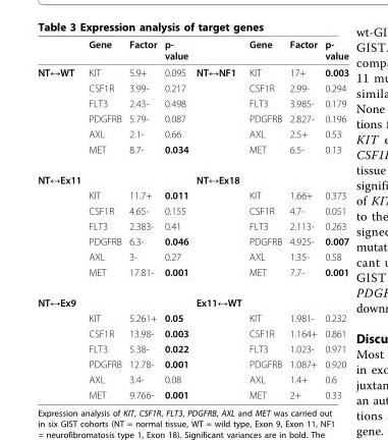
<table><thead><tr><td></td><td>Gene</td><td>Factor</td><td>p- value</td><td></td><td>Gene</td><td>Factor</td><td>p- value</td></tr></thead><tbody><tr><td rowspan="6">NT↔WT</td><td>KIT</td><td>5.9+</td><td>0.095</td><td>NT↔NF1</td><td>KIT</td><td>17+</td><td>0.003</td></tr><tr><td>CSF1R</td><td>3.99-</td><td>0.217</td><td></td><td>CSF1R</td><td>2.99-</td><td>0.294</td></tr><tr><td>FLT3</td><td>2.43-</td><td>0.498</td><td></td><td>FLT3</td><td>3.985-</td><td>0.179</td></tr><tr><td>PDGFRB</td><td>5.79-</td><td>0.087</td><td></td><td>PDGFRB</td><td>2.827-</td><td>0.196</td></tr><tr><td>AXL</td><td>2.1-</td><td>0.66</td><td></td><td>AXL</td><td>2.5+</td><td>0.53</td></tr><tr><td>MET</td><td>8.7-</td><td>0.034</td><td></td><td>MET</td><td>6.5-</td><td>0.13</td></tr><tr><td rowspan="7">NT↔Ex11</td><td></td><td></td><td></td><td>NT↔Ex18</td><td></td><td></td><td></td></tr><tr><td>KIT</td><td>11.7+</td><td>0.011</td><td></td><td>KIT</td><td>1.66+</td><td>0.373</td></tr><tr><td>CSF1R</td><td>4.65-</td><td>0.155</td><td></td><td>CSF1R</td><td>4.7-</td><td>0.051</td></tr><tr><td>FLT3</td><td>2.383-</td><td>0.41</td><td></td><td>FLT3</td><td>2.113-</td><td>0.263</td></tr><tr><td>PDGFRB</td><td>6.3-</td><td>0.046</td><td></td><td>PDGFRB</td><td>4.925-</td><td>0.007</td></tr><tr><td>AXL</td><td>3-</td><td>0.27</td><td></td><td>AXL</td><td>1.35-</td><td>0.58</td></tr><tr><td>MET</td><td>17.81-</td><td>0.001</td><td></td><td>MET</td><td>7.7-</td><td>0.001</td></tr><tr><td rowspan="7">NT↔Ex9</td><td></td><td></td><td></td><td>Ex11↔WT</td><td></td><td></td><td></td></tr><tr><td>KIT</td><td>5.261+</td><td>0.05</td><td></td><td>KIT</td><td>1.981-</td><td>0.232</td></tr><tr><td>CSF1R</td><td>13.98-</td><td>0.003</td><td></td><td>CSF1R</td><td>1.164+</td><td>0.861</td></tr><tr><td>FLT3</td><td>5.38-</td><td>0.022</td><td></td><td>FLT3</td><td>1.023-</td><td>0.971</td></tr><tr><td>PDGFRB</td><td>12.78-</td><td>0.001</td><td></td><td>PDGFRB</td><td>1.087+</td><td>0.920</td></tr><tr><td>AXL</td><td>3.4-</td><td>0.08</td><td></td><td>AXL</td><td>1.4+</td><td>0.6</td></tr><tr><td>MET</td><td>9.766-</td><td>0.001</td><td></td><td>MET</td><td>2+</td><td>0.33</td></tr></tbody></table>